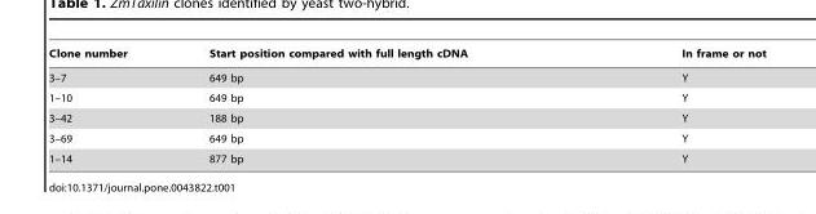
<table><thead><tr><td>Clone number</td><td>Start position compared with full length cDNA</td><td>In frame or not</td></tr></thead><tbody><tr><td>3–7</td><td>649 bp</td><td>Y</td></tr><tr><td>1–10</td><td>649 bp</td><td>Y</td></tr><tr><td>3–42</td><td>188 bp</td><td>Y</td></tr><tr><td>3–69</td><td>649 bp</td><td>Y</td></tr><tr><td>1–14</td><td>877 bp</td><td>Y</td></tr></tbody></table>